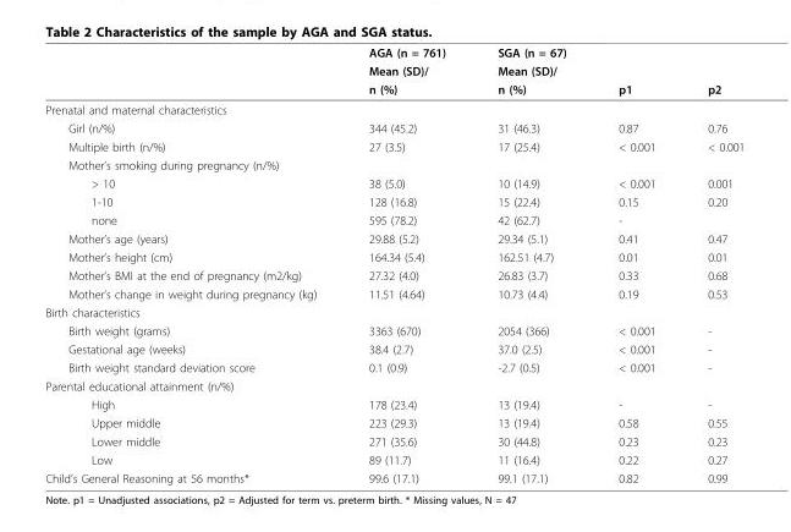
<table><thead><tr><td rowspan="3"></td><td rowspan="3">AGA (n = 761) Mean (SD)/ n (%)</td><td rowspan="3">SGA (n = 67) Mean (SD)/ n (%)</td><td rowspan="3">p1</td><td rowspan="3">p2</td></tr><tr></tr><tr></tr></thead><tbody><tr><td colspan="5">Prenatal and maternal characteristics</td></tr><tr><td>Girl (n/%)</td><td>344 (45.2)</td><td>31 (46.3)</td><td>0.87</td><td>0.76</td></tr><tr><td>Multiple birth (n/%)</td><td>27 (3.5)</td><td>17 (25.4)</td><td>&lt; 0.001</td><td>&lt; 0.001</td></tr><tr><td colspan="5">Mother’s smoking during pregnancy (n/%)</td></tr><tr><td>&gt; 10</td><td>38 (5.0)</td><td>10 (14.9)</td><td>&lt; 0.001</td><td>0.001</td></tr><tr><td>1-10</td><td>128 (16.8)</td><td>15 (22.4)</td><td>0.15</td><td>0.20</td></tr><tr><td>none</td><td>595 (78.2)</td><td>42 (62.7)</td><td>-</td><td></td></tr><tr><td>Mother’s age (years)</td><td>29.88 (5.2)</td><td>29.34 (5.1)</td><td>0.41</td><td>0.47</td></tr><tr><td>Mother’s height (cm)</td><td>164.34 (5.4)</td><td>162.51 (4.7)</td><td>0.01</td><td>0.01</td></tr><tr><td>Mother’s BMI at the end of pregnancy (m2/kg)</td><td>27.32 (4.0)</td><td>26.83 (3.7)</td><td>0.33</td><td>0.68</td></tr><tr><td>Mother’s change in weight during pregnancy (kg)</td><td>11.51 (4.64)</td><td>10.73 (4.4)</td><td>0.19</td><td>0.53</td></tr><tr><td colspan="5">Birth characteristics</td></tr><tr><td>Birth weight (grams)</td><td>3363 (670)</td><td>2054 (366)</td><td>&lt; 0.001</td><td>-</td></tr><tr><td>Gestational age (weeks)</td><td>38.4 (2.7)</td><td>37.0 (2.5)</td><td>&lt; 0.001</td><td>-</td></tr><tr><td>Birth weight standard deviation score</td><td>0.1 (0.9)</td><td>-2.7 (0.5)</td><td>&lt; 0.001</td><td>-</td></tr><tr><td colspan="5">Parental educational attainment (n/%)</td></tr><tr><td>High</td><td>178 (23.4)</td><td>13 (19.4)</td><td>-</td><td>-</td></tr><tr><td>Upper middle</td><td>223 (29.3)</td><td>13 (19.4)</td><td>0.58</td><td>0.55</td></tr><tr><td>Lower middle</td><td>271 (35.6)</td><td>30 (44.8)</td><td>0.23</td><td>0.23</td></tr><tr><td>Low</td><td>89 (11.7)</td><td>11 (16.4)</td><td>0.22</td><td>0.27</td></tr><tr><td>Child’s General Reasoning at 56 months*</td><td>99.6 (17.1)</td><td>99.1 (17.1)</td><td>0.82</td><td>0.99</td></tr></tbody></table>